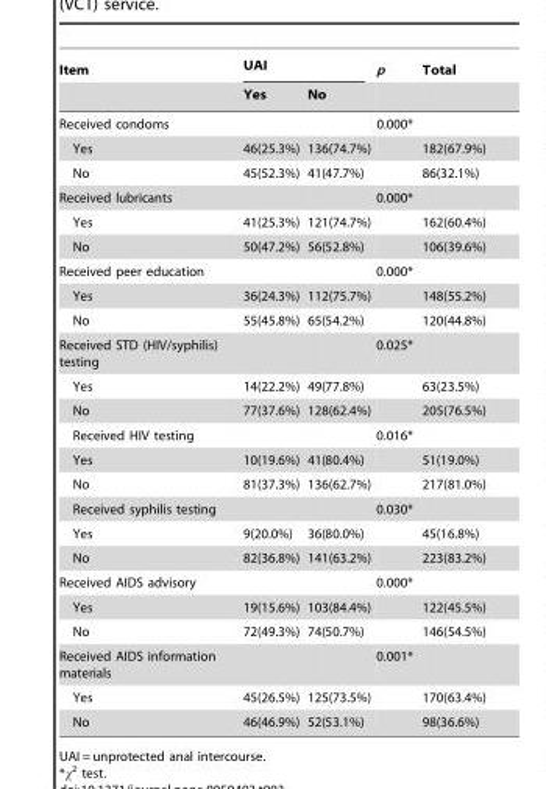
<table><thead><tr><td rowspan="2">Item</td><td colspan="2">UAI</td><td rowspan="2">p</td><td rowspan="2">Total</td></tr><tr><td>Yes</td><td>No</td></tr></thead><tbody><tr><td>Received condoms</td><td></td><td></td><td>0.000*</td><td></td></tr><tr><td>Yes</td><td>46(25.3%)</td><td>136(74.7%)</td><td></td><td>182(67.9%)</td></tr><tr><td>No</td><td>45(52.3%)</td><td>41(47.7%)</td><td></td><td>86(32.1%)</td></tr><tr><td>Received lubricants</td><td></td><td></td><td>0.000*</td><td></td></tr><tr><td>Yes</td><td>41(25.3%)</td><td>121(74.7%)</td><td></td><td>162(60.4%)</td></tr><tr><td>No</td><td>50(47.2%)</td><td>56(52.8%)</td><td></td><td>106(39.6%)</td></tr><tr><td>Received peer education</td><td></td><td></td><td>0.000*</td><td></td></tr><tr><td>Yes</td><td>36(24.3%)</td><td>112(75.7%)</td><td></td><td>148(55.2%)</td></tr><tr><td>No</td><td>55(45.8%)</td><td>65(54.2%)</td><td></td><td>120(44.8%)</td></tr><tr><td>Received STD (HIV/syphilis) testing</td><td></td><td></td><td>0.025*</td><td></td></tr><tr><td>Yes</td><td>14(22.2%)</td><td>49(77.8%)</td><td></td><td>63(23.5%)</td></tr><tr><td>No</td><td>77(37.6%)</td><td>128(62.4%)</td><td></td><td>205(76.5%)</td></tr><tr><td>Received HIV testing</td><td></td><td></td><td>0.016*</td><td></td></tr><tr><td>Yes</td><td>10(19.6%)</td><td>41(80.4%)</td><td></td><td>51(19.0%)</td></tr><tr><td>No</td><td>81(37.3%)</td><td>136(62.7%)</td><td></td><td>217(81.0%)</td></tr><tr><td>Received syphilis testing</td><td></td><td></td><td>0.030*</td><td></td></tr><tr><td>Yes</td><td>9(20.0%)</td><td>36(80.0%)</td><td></td><td>45(16.8%)</td></tr><tr><td>No</td><td>82(36.8%)</td><td>141(63.2%)</td><td></td><td>223(83.2%)</td></tr><tr><td>Received AIDS advisory</td><td></td><td></td><td>0.000*</td><td></td></tr><tr><td>Yes</td><td>19(15.6%)</td><td>103(84.4%)</td><td></td><td>122(45.5%)</td></tr><tr><td>No</td><td>72(49.3%)</td><td>74(50.7%)</td><td></td><td>146(54.5%)</td></tr><tr><td>Received AIDS information materials</td><td></td><td></td><td>0.001*</td><td></td></tr><tr><td>Yes</td><td>45(26.5%)</td><td>125(73.5%)</td><td></td><td>170(63.4%)</td></tr><tr><td>No</td><td>46(46.9%)</td><td>52(53.1%)</td><td></td><td>98(36.6%)</td></tr></tbody></table>